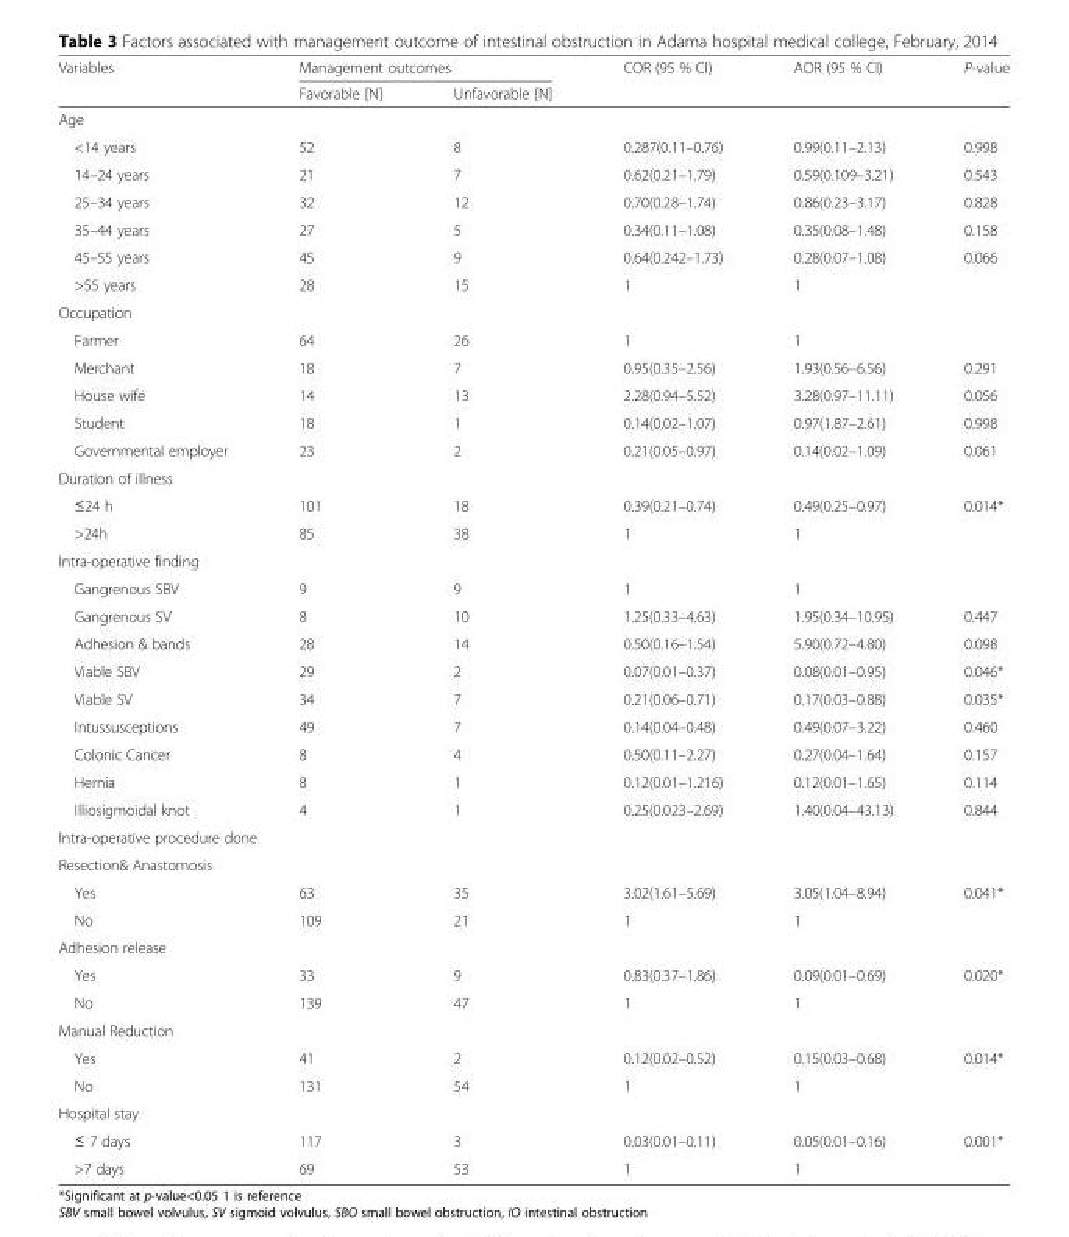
<table><thead><tr><td rowspan="2">Variables</td><td colspan="2">Management outcomes</td><td rowspan="2">COR (95 % CI)</td><td rowspan="2">AOR (95 % CI)</td><td rowspan="2">P-value</td></tr><tr><td>Favorable [N]</td><td>Unfavorable [N]</td></tr></thead><tbody><tr><td colspan="6">Age</td></tr><tr><td>&lt;14 years</td><td>52</td><td>8</td><td>0.287(0.11–0.76)</td><td>0.99(0.11–2.13)</td><td>0.998</td></tr><tr><td>14–24 years</td><td>21</td><td>7</td><td>0.62(0.21–1.79)</td><td>0.59(0.109–3.21)</td><td>0.543</td></tr><tr><td>25–34 years</td><td>32</td><td>12</td><td>0.70(0.28–1.74)</td><td>0.86(0.23–3.17)</td><td>0.828</td></tr><tr><td>35–44 years</td><td>27</td><td>5</td><td>0.34(0.11–1.08)</td><td>0.35(0.08–1.48)</td><td>0.158</td></tr><tr><td>45–55 years</td><td>45</td><td>9</td><td>0.64(0.242–1.73)</td><td>0.28(0.07–1.08)</td><td>0.066</td></tr><tr><td>&gt;55 years</td><td>28</td><td>15</td><td>1</td><td>1</td><td></td></tr><tr><td colspan="6">Occupation</td></tr><tr><td>Farmer</td><td>64</td><td>26</td><td>1</td><td>1</td><td></td></tr><tr><td>Merchant</td><td>18</td><td>7</td><td>0.95(0.35–2.56)</td><td>1.93(0.56–6.56)</td><td>0.291</td></tr><tr><td>House wife</td><td>14</td><td>13</td><td>2.28(0.94–5.52)</td><td>3.28(0.97–11.11)</td><td>0.056</td></tr><tr><td>Student</td><td>18</td><td>1</td><td>0.14(0.02–1.07)</td><td>0.97(1.87–2.61)</td><td>0.998</td></tr><tr><td>Governmental employer</td><td>23</td><td>2</td><td>0.21(0.05–0.97)</td><td>0.14(0.02–1.09)</td><td>0.061</td></tr><tr><td colspan="6">Duration of illness</td></tr><tr><td>≤24 h</td><td>101</td><td>18</td><td>0.39(0.21–0.74)</td><td>0.49(0.25–0.97)</td><td>0.014*</td></tr><tr><td>&gt;24h</td><td>85</td><td>38</td><td>1</td><td>1</td><td></td></tr><tr><td colspan="6">Intra-operative finding</td></tr><tr><td>Gangrenous SBV</td><td>9</td><td>9</td><td>1</td><td>1</td><td></td></tr><tr><td>Gangrenous SV</td><td>8</td><td>10</td><td>1.25(0.33–4.63)</td><td>1.95(0.34–10.95)</td><td>0.447</td></tr><tr><td>Adhesion &amp; bands</td><td>28</td><td>14</td><td>0.50(0.16–1.54)</td><td>5.90(0.72–4.80)</td><td>0.098</td></tr><tr><td>Viable SBV</td><td>29</td><td>2</td><td>0.07(0.01–0.37)</td><td>0.08(0.01–0.95)</td><td>0.046*</td></tr><tr><td>Viable SV</td><td>34</td><td>7</td><td>0.21(0.06–0.71)</td><td>0.17(0.03–0.88)</td><td>0.035*</td></tr><tr><td>Intussusceptions</td><td>49</td><td>7</td><td>0.14(0.04–0.48)</td><td>0.49(0.07–3.22)</td><td>0.460</td></tr><tr><td>Colonic Cancer</td><td>8</td><td>4</td><td>0.50(0.11–2.27)</td><td>0.27(0.04–1.64)</td><td>0.157</td></tr><tr><td>Hernia</td><td>8</td><td>1</td><td>0.12(0.01–1.216)</td><td>0.12(0.01–1.65)</td><td>0.114</td></tr><tr><td>Illiosigmoidal knot</td><td>4</td><td>1</td><td>0.25(0.023–2.69)</td><td>1.40(0.04–43.13)</td><td>0.844</td></tr><tr><td colspan="6">Intra-operative procedure done</td></tr><tr><td colspan="6">Resection&amp; Anastomosis</td></tr><tr><td>Yes</td><td>63</td><td>35</td><td>3.02(1.61–5.69)</td><td>3.05(1.04–8.94)</td><td>0.041*</td></tr><tr><td>No</td><td>109</td><td>21</td><td>1</td><td>1</td><td></td></tr><tr><td colspan="6">Adhesion release</td></tr><tr><td>Yes</td><td>33</td><td>9</td><td>0.83(0.37–1.86)</td><td>0.09(0.01–0.69)</td><td>0.020*</td></tr><tr><td>No</td><td>139</td><td>47</td><td>1</td><td>1</td><td></td></tr><tr><td colspan="6">Manual Reduction</td></tr><tr><td>Yes</td><td>41</td><td>2</td><td>0.12(0.02–0.52)</td><td>0.15(0.03–0.68)</td><td>0.014*</td></tr><tr><td>No</td><td>131</td><td>54</td><td>1</td><td>1</td><td></td></tr><tr><td colspan="6">Hospital stay</td></tr><tr><td>≤ 7 days</td><td>117</td><td>3</td><td>0.03(0.01–0.11)</td><td>0.05(0.01–0.16)</td><td>0.001*</td></tr><tr><td>&gt;7 days</td><td>69</td><td>53</td><td>1</td><td>1</td><td></td></tr></tbody></table>